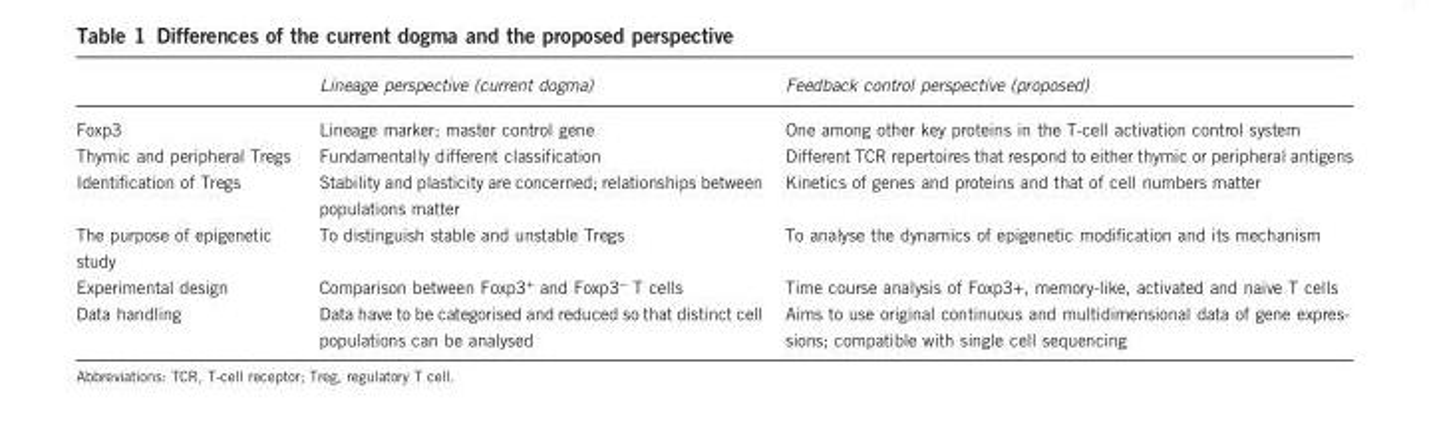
<table><thead><tr><td></td><td>Lineage perspective (current dogma)</td><td>Feedback control perspective (proposed)</td></tr></thead><tbody><tr><td>Foxp3</td><td>Lineage marker; master control gene</td><td>One among other key proteins in the T-cell activation control system</td></tr><tr><td>Thymic and peripheral Tregs</td><td>Fundamentally different classification</td><td>Different TCR repertoires that respond to either thymic or peripheral antigens</td></tr><tr><td>Identification of Tregs</td><td>Stability and plasticity are concerned; relationships between populations matter</td><td>Kinetics of genes and proteins and that of cell numbers matter</td></tr><tr><td>The purpose of epigenetic study</td><td>To distinguish stable and unstable Tregs</td><td>To analyse the dynamics of epigenetic modification and its mechanism</td></tr><tr><td>Experimental design</td><td>Comparison between Foxp3<sup>+</sup> and Foxp3<sup>−</sup> T cells</td><td>Time course analysis of Foxp3+, memory-like, activated and naive T cells</td></tr><tr><td>Data handling</td><td>Data have to be categorised and reduced so that distinct cell populations can be analysed</td><td>Aims to use original continuous and multidimensional data of gene expres- sions; compatible with single cell sequencing</td></tr></tbody></table>